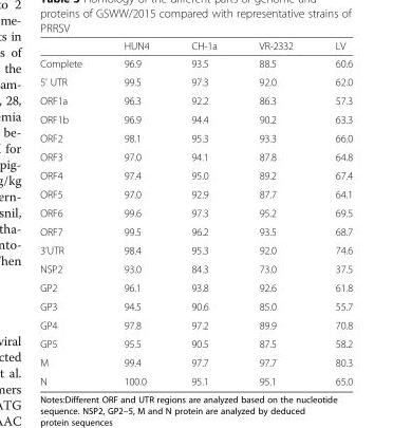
<table><thead><tr><td></td><td>HUN4</td><td>CH-1a</td><td>VR-2332</td><td>LV</td></tr></thead><tbody><tr><td>Complete</td><td>96.9</td><td>93.5</td><td>88.5</td><td>60.6</td></tr><tr><td>5’ UTR</td><td>99.5</td><td>97.3</td><td>92.0</td><td>62.0</td></tr><tr><td>ORF1a</td><td>96.3</td><td>92.2</td><td>86.3</td><td>57.3</td></tr><tr><td>ORF1b</td><td>96.9</td><td>94.4</td><td>90.2</td><td>63.3</td></tr><tr><td>ORF2</td><td>98.1</td><td>95.3</td><td>93.3</td><td>66.0</td></tr><tr><td>ORF3</td><td>97.0</td><td>94.1</td><td>87.8</td><td>64.8</td></tr><tr><td>ORF4</td><td>97.4</td><td>95.0</td><td>89.2</td><td>67.4</td></tr><tr><td>ORF5</td><td>97.0</td><td>92.9</td><td>87.7</td><td>64.1</td></tr><tr><td>ORF6</td><td>99.6</td><td>97.3</td><td>95.2</td><td>69.5</td></tr><tr><td>ORF7</td><td>99.5</td><td>96.2</td><td>93.5</td><td>68.7</td></tr><tr><td>3’UTR</td><td>98.4</td><td>95.3</td><td>92.0</td><td>74.6</td></tr><tr><td>NSP2</td><td>93.0</td><td>84.3</td><td>73.0</td><td>37.5</td></tr><tr><td>GP2</td><td>96.1</td><td>93.8</td><td>92.6</td><td>61.8</td></tr><tr><td>GP3</td><td>94.5</td><td>90.6</td><td>85.0</td><td>55.7</td></tr><tr><td>GP4</td><td>97.8</td><td>97.2</td><td>89.9</td><td>70.8</td></tr><tr><td>GP5</td><td>95.5</td><td>90.5</td><td>87.5</td><td>58.2</td></tr><tr><td>M</td><td>99.4</td><td>97.7</td><td>97.7</td><td>80.3</td></tr><tr><td>N</td><td>100.0</td><td>95.1</td><td>95.1</td><td>65.0</td></tr></tbody></table>